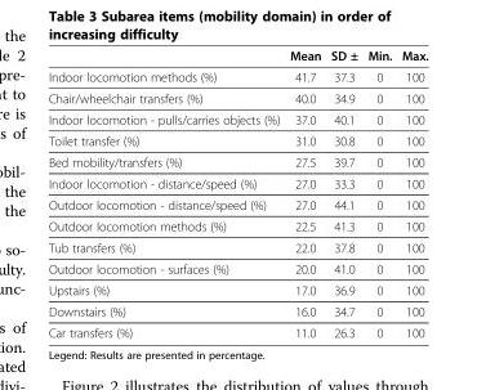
<table><thead><tr><td></td><td>Mean</td><td>SD ±</td><td>Min.</td><td>Max.</td></tr></thead><tbody><tr><td>Indoor locomotion methods (%)</td><td>41.7</td><td>37.3</td><td>0</td><td>100</td></tr><tr><td>Chair/wheelchair transfers (%)</td><td>40.0</td><td>34.9</td><td>0</td><td>100</td></tr><tr><td>Indoor locomotion - pulls/carries objects (%)</td><td>37.0</td><td>40.1</td><td>0</td><td>100</td></tr><tr><td>Toilet transfer (%)</td><td>31.0</td><td>30.8</td><td>0</td><td>100</td></tr><tr><td>Bed mobility/transfers (%)</td><td>27.5</td><td>39.7</td><td>0</td><td>100</td></tr><tr><td>Indoor locomotion - distance/speed (%)</td><td>27.0</td><td>33.3</td><td>0</td><td>100</td></tr><tr><td>Outdoor locomotion - distance/speed (%)</td><td>27.0</td><td>44.1</td><td>0</td><td>100</td></tr><tr><td>Outdoor locomotion methods (%)</td><td>22.5</td><td>41.3</td><td>0</td><td>100</td></tr><tr><td>Tub transfers (%)</td><td>22.0</td><td>37.8</td><td>0</td><td>100</td></tr><tr><td>Outdoor locomotion - surfaces (%)</td><td>20.0</td><td>41.0</td><td>0</td><td>100</td></tr><tr><td>Upstairs (%)</td><td>17.0</td><td>36.9</td><td>0</td><td>100</td></tr><tr><td>Downstairs (%)</td><td>16.0</td><td>34.7</td><td>0</td><td>100</td></tr><tr><td>Car transfers (%)</td><td>11.0</td><td>26.3</td><td>0</td><td>100</td></tr></tbody></table>